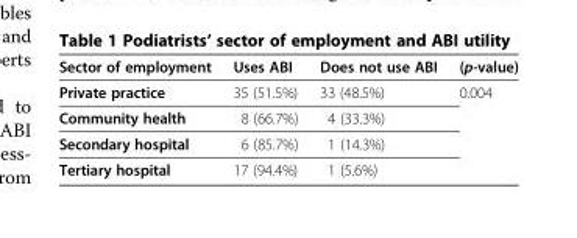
<table><thead><tr><td>Sector of employment</td><td>Uses ABI</td><td>Does not use ABI</td><td>(p-value)</td></tr></thead><tbody><tr><td>Private practice</td><td>35 (51.5%)</td><td>33 (48.5%)</td><td>0.004</td></tr><tr><td>Community health</td><td>8 (66.7%)</td><td>4 (33.3%)</td><td></td></tr><tr><td>Secondary hospital</td><td>6 (85.7%)</td><td>1 (14.3%)</td><td></td></tr><tr><td>Tertiary hospital</td><td>17 (94.4%)</td><td>1 (5.6%)</td><td></td></tr></tbody></table>